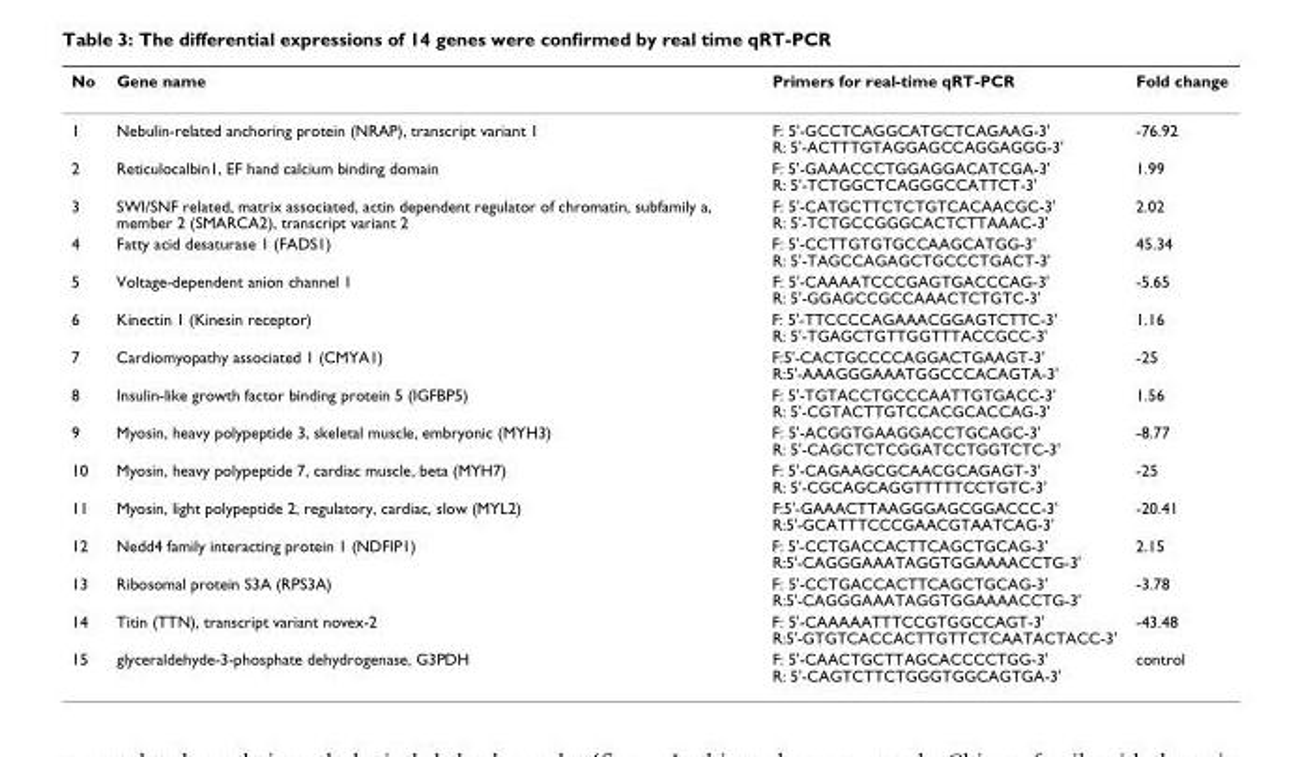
<table><thead><tr><td>No</td><td>Gene name</td><td>Primers for real-time qRT-PCR</td><td>Fold change</td></tr></thead><tbody><tr><td>1</td><td>Nebulin-related anchoring protein (NRAP), transcript variant 1</td><td>F: 5&#x27;-GCCTCAGGCATGCTCAGAAG-3&#x27; R: 5&#x27;-ACTTTGTAGGAGCCAGGAGGG-3&#x27;</td><td>-76.92</td></tr><tr><td>2</td><td>Reticulocalbin1, EF hand calcium binding domain</td><td>F: 5&#x27;-GAAACCCTGGAGGACATCGA-3&#x27; R: 5&#x27;-TCTGGCTCAGGGCCATTCT-3&#x27;</td><td>1.99</td></tr><tr><td>3</td><td>SWI/SNF related, matrix associated, actin dependent regulator of chromatin, subfamily a, member 2 (SMARCA2), transcript variant 2</td><td>F: 5&#x27;-CATGCTTCTCTGTCACAACGC-3&#x27; R: 5&#x27;-TCTGCCGGGCACTCTTAAAC-3&#x27;</td><td>2.02</td></tr><tr><td>4</td><td>Fatty acid desaturase 1 (FADS1)</td><td>F: 5&#x27;-CCTTGTGTGCCAAGCATGG-3&#x27; R: 5&#x27;-TAGCCAGAGCTGCCCTGACT-3&#x27;</td><td>45.34</td></tr><tr><td>5</td><td>Voltage-dependent anion channel 1</td><td>F: 5&#x27;-CAAAATCCCGAGTGACCCAG-3&#x27; R: 5&#x27;-GGAGCCGCCAAACTCTGTC-3&#x27;</td><td>-5.65</td></tr><tr><td>6</td><td>Kinectin 1 (Kinesin receptor)</td><td>F: 5&#x27;-TTCCCCAGAAACGGAGTCTTC-3&#x27; R: 5&#x27;-TGAGCTGTTGGTTTACCGCC-3&#x27;</td><td>1.16</td></tr><tr><td>7</td><td>Cardiomyopathy associated 1 (CMYA1)</td><td>F:5&#x27;-CACTGCCCCAGGACTGAAGT-3&#x27; R:5&#x27;-AAAGGGAAATGGCCCACAGTA-3&#x27;</td><td>-25</td></tr><tr><td>8</td><td>Insulin-like growth factor binding protein 5 (IGFBP5)</td><td>F: 5&#x27;-TGTACCTGCCCAATTGTGACC-3&#x27; R: 5&#x27;-CGTACTTGTCCACGCACCAG-3&#x27;</td><td>1.56</td></tr><tr><td>9</td><td>Myosin, heavy polypeptide 3, skeletal muscle, embryonic (MYH3)</td><td>F: 5&#x27;-ACGGTGAAGGACCTGCAGC-3&#x27; R: 5&#x27;-CAGCTCTCGGATCCTGGTCTC-3&#x27;</td><td>-8.77</td></tr><tr><td>10</td><td>Myosin, heavy polypeptide 7, cardiac muscle, beta (MYH7)</td><td>F: 5&#x27;-CAGAAGCGCAACGCAGAGT-3&#x27; R: 5&#x27;-CGCAGCAGGTTTTTCCTGTC-3&#x27;</td><td>-25</td></tr><tr><td>11</td><td>Myosin, light polypeptide 2, regulatory, cardiac, slow (MYL2)</td><td>F:5&#x27;-GAAACTTAAGGGAGCGGACCC-3&#x27; R:5&#x27;-GCATTTCCCGAACGTAATCAG-3&#x27;</td><td>-20.41</td></tr><tr><td>12</td><td>Nedd4 family interacting protein 1 (NDFIP1)</td><td>F: 5&#x27;-CCTGACCACTTCAGCTGCAG-3&#x27; R:5&#x27;-CAGGGAAATAGGTGGAAAACCTG-3&#x27;</td><td>2.15</td></tr><tr><td>13</td><td>Ribosomal protein S3A (RPS3A)</td><td>F: 5&#x27;-CCTGACCACTTCAGCTGCAG-3&#x27; R:5&#x27;-CAGGGAAATAGGTGGAAAACCTG-3&#x27;</td><td>-3.78</td></tr><tr><td>14</td><td>Titin (TTN), transcript variant novex-2</td><td>F: 5&#x27;-CAAAAATTTCCGTGGCCAGT-3&#x27; R:5&#x27;-GTGTCACCACTTGTTCTCAATACTACC-3&#x27;</td><td>-43.48</td></tr><tr><td>15</td><td>glyceraldehyde-3-phosphate dehydrogenase, G3PDH</td><td>F: 5&#x27;-CAACTGCTTAGCACCCCTGG-3&#x27; R: 5&#x27;-CAGTCTTCTGGGTGGCAGTGA-3&#x27;</td><td>control</td></tr></tbody></table>